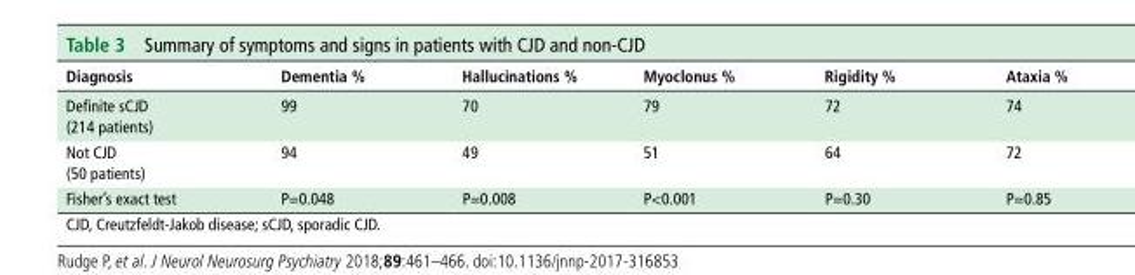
<table><thead><tr><td>diagnosis</td><td>dementia %</td><td>hallucinations %</td><td>Myoclonus %</td><td>rigidity %</td><td>Ataxia %</td></tr></thead><tbody><tr><td>Definite sCJD (214 patients)</td><td>99</td><td>70</td><td>79</td><td>72</td><td>74</td></tr><tr><td>Not CJD (50 patients)</td><td>94</td><td>49</td><td>51</td><td>64</td><td>72</td></tr><tr><td>Fisher’s exact test</td><td>P=0.048</td><td>P=0.008</td><td>P&lt;0.001</td><td>P=0.30</td><td>P=0.85</td></tr></tbody></table>